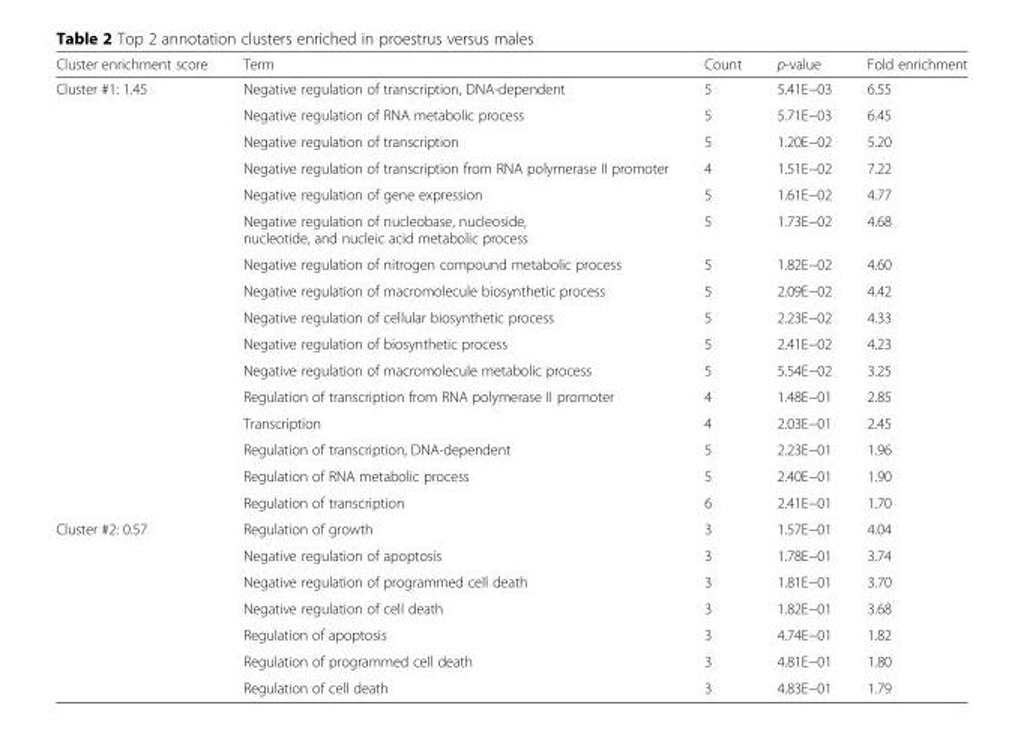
<table><thead><tr><td>Cluster enrichment score</td><td>Term</td><td>Count</td><td>p-value</td><td>Fold enrichment</td></tr></thead><tbody><tr><td rowspan="16">Cluster #1: 1.45</td><td>Negative regulation of transcription, DNA-dependent</td><td>5</td><td>5.41E−03</td><td>6.55</td></tr><tr><td>Negative regulation of RNA metabolic process</td><td>5</td><td>5.71E−03</td><td>6.45</td></tr><tr><td>Negative regulation of transcription</td><td>5</td><td>1.20E−02</td><td>5.20</td></tr><tr><td>Negative regulation of transcription from RNA polymerase II promoter</td><td>4</td><td>1.51E−02</td><td>7.22</td></tr><tr><td>Negative regulation of gene expression</td><td>5</td><td>1.61E−02</td><td>4.77</td></tr><tr><td>Negative regulation of nucleobase, nucleoside, nucleotide, and nucleic acid metabolic process</td><td>5</td><td>1.73E−02</td><td>4.68</td></tr><tr><td>Negative regulation of nitrogen compound metabolic process</td><td>5</td><td>1.82E−02</td><td>4.60</td></tr><tr><td>Negative regulation of macromolecule biosynthetic process</td><td>5</td><td>2.09E−02</td><td>4.42</td></tr><tr><td>Negative regulation of cellular biosynthetic process</td><td>5</td><td>2.23E−02</td><td>4.33</td></tr><tr><td>Negative regulation of biosynthetic process</td><td>5</td><td>2.41E−02</td><td>4.23</td></tr><tr><td>Negative regulation of macromolecule metabolic process</td><td>5</td><td>5.54E−02</td><td>3.25</td></tr><tr><td>Regulation of transcription from RNA polymerase II promoter</td><td>4</td><td>1.48E−01</td><td>2.85</td></tr><tr><td>Transcription</td><td>4</td><td>2.03E−01</td><td>2.45</td></tr><tr><td>Regulation of transcription, DNA-dependent</td><td>5</td><td>2.23E−01</td><td>1.96</td></tr><tr><td>Regulation of RNA metabolic process</td><td>5</td><td>2.40E−01</td><td>1.90</td></tr><tr><td>Regulation of transcription</td><td>6</td><td>2.41E−01</td><td>1.70</td></tr><tr><td rowspan="7">Cluster #2: 0.57</td><td>Regulation of growth</td><td>3</td><td>1.57E−01</td><td>4.04</td></tr><tr><td>Negative regulation of apoptosis</td><td>3</td><td>1.78E−01</td><td>3.74</td></tr><tr><td>Negative regulation of programmed cell death</td><td>3</td><td>1.81E−01</td><td>3.70</td></tr><tr><td>Negative regulation of cell death</td><td>3</td><td>1.82E−01</td><td>3.68</td></tr><tr><td>Regulation of apoptosis</td><td>3</td><td>4.74E−01</td><td>1.82</td></tr><tr><td>Regulation of programmed cell death</td><td>3</td><td>4.81E−01</td><td>1.80</td></tr><tr><td>Regulation of cell death</td><td>3</td><td>4.83E−01</td><td>1.79</td></tr></tbody></table>